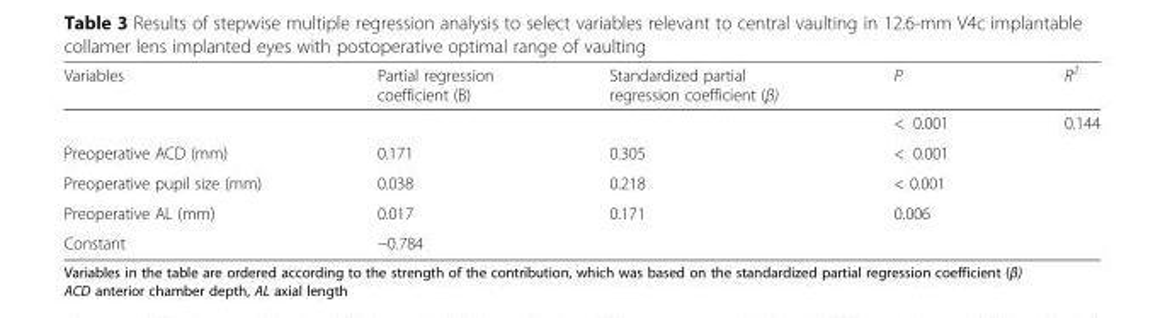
<table><thead><tr><td>Variables</td><td>Partial regression coefficient (B)</td><td>Standardized partial regression coefficient (β)</td><td>P</td><td>R<sup>2</sup></td></tr></thead><tbody><tr><td></td><td></td><td></td><td>&lt; 0.001</td><td>0.144</td></tr><tr><td>Preoperative ACD (mm)</td><td>0.171</td><td>0.305</td><td>&lt; 0.001</td><td></td></tr><tr><td>Preoperative pupil size (mm)</td><td>0.038</td><td>0.218</td><td>&lt; 0.001</td><td></td></tr><tr><td>Preoperative AL (mm)</td><td>0.017</td><td>0.171</td><td>0.006</td><td></td></tr><tr><td>Constant</td><td>−0.784</td><td></td><td></td><td></td></tr></tbody></table>